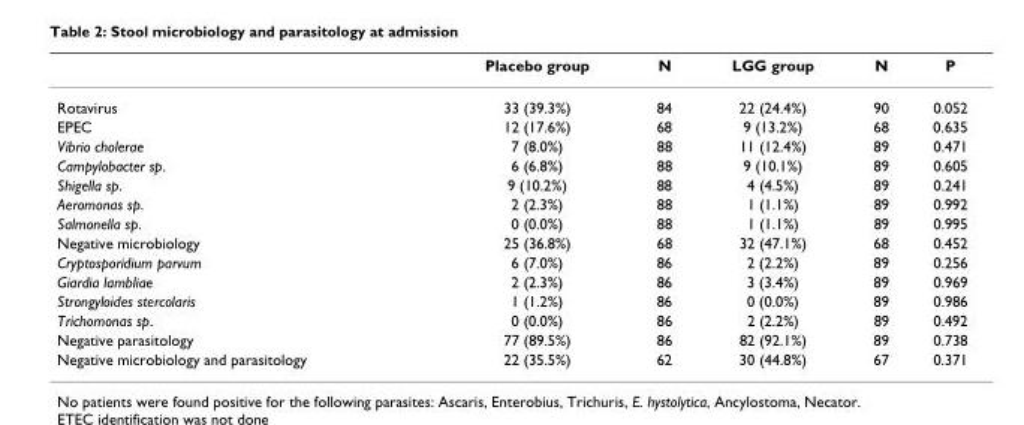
<table><thead><tr><td></td><td>Placebo group</td><td>N</td><td>LGG group</td><td>N</td><td>P</td></tr></thead><tbody><tr><td>Rotavirus</td><td>33 (39.3%)</td><td>84</td><td>22 (24.4%)</td><td>90</td><td>0.052</td></tr><tr><td>EPEC</td><td>12 (17.6%)</td><td>68</td><td>9 (13.2%)</td><td>68</td><td>0.635</td></tr><tr><td>Vibrio cholerae</td><td>7 (8.0%)</td><td>88</td><td>11 (12.4%)</td><td>89</td><td>0.471</td></tr><tr><td>Campylobacter sp.</td><td>6 (6.8%)</td><td>88</td><td>9 (10.1%)</td><td>89</td><td>0.605</td></tr><tr><td>Shigella sp.</td><td>9 (10.2%)</td><td>88</td><td>4 (4.5%)</td><td>89</td><td>0.241</td></tr><tr><td>Aeromonas sp.</td><td>2 (2.3%)</td><td>88</td><td>1 (1.1%)</td><td>89</td><td>0.992</td></tr><tr><td>Salmonella sp.</td><td>0 (0.0%)</td><td>88</td><td>1 (1.1%)</td><td>89</td><td>0.995</td></tr><tr><td>Negative microbiology</td><td>25 (36.8%)</td><td>68</td><td>32 (47.1%)</td><td>68</td><td>0.452</td></tr><tr><td>Cryptosporidium parvum</td><td>6 (7.0%)</td><td>86</td><td>2 (2.2%)</td><td>89</td><td>0.256</td></tr><tr><td>Giardia lambliae</td><td>2 (2.3%)</td><td>86</td><td>3 (3.4%)</td><td>89</td><td>0.969</td></tr><tr><td>Strongyloides stercolaris</td><td>1 (1.2%)</td><td>86</td><td>0 (0.0%)</td><td>89</td><td>0.986</td></tr><tr><td>Trichomonas sp.</td><td>0 (0.0%)</td><td>86</td><td>2 (2.2%)</td><td>89</td><td>0.492</td></tr><tr><td>Negative parasitology</td><td>77 (89.5%)</td><td>86</td><td>82 (92.1%)</td><td>89</td><td>0.738</td></tr><tr><td>Negative microbiology and parasitology</td><td>22 (35.5%)</td><td>62</td><td>30 (44.8%)</td><td>67</td><td>0.371</td></tr></tbody></table>